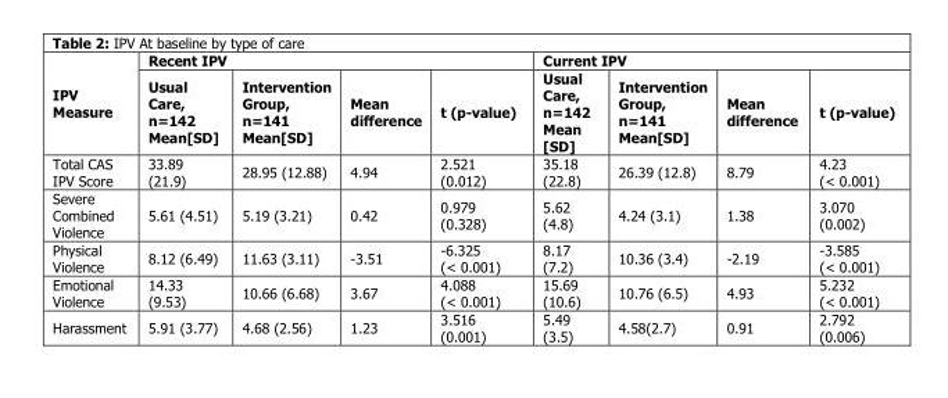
<table><thead><tr><td rowspan="2">IPV Measure</td><td colspan="4">Recent IPV</td><td colspan="4">Current IPV</td></tr><tr><td>Usual Care, n=142 Mean[SD]</td><td>Intervention Group, n=141 Mean[SD]</td><td>Mean difference</td><td>t (p-value)</td><td>Usual Care, n=142 Mean [SD]</td><td>Intervention Group, n=141 Mean[SD]</td><td>Mean difference</td><td>t (p-value)</td></tr></thead><tbody><tr><td>Total CAS IPV Score</td><td>33.89 (21.9)</td><td>28.95 (12.88)</td><td>4.94</td><td>2.521 (0.012)</td><td>35.18 (22.8)</td><td>26.39 (12.8)</td><td>8.79</td><td>4.23 (&lt; 0.001)</td></tr><tr><td>Severe Combined Violence</td><td>5.61 (4.51)</td><td>5.19 (3.21)</td><td>0.42</td><td>0.979 (0.328)</td><td>5.62 (4.8)</td><td>4.24 (3.1)</td><td>1.38</td><td>3.070 (0.002)</td></tr><tr><td>Physical Violence</td><td>8.12 (6.49)</td><td>11.63 (3.11)</td><td>-3.51</td><td>-6.325 (&lt; 0.001)</td><td>8.17 (7.2)</td><td>10.36 (3.4)</td><td>-2.19</td><td>-3.585 (&lt; 0.001)</td></tr><tr><td>Emotional Violence</td><td>14.33 (9.53)</td><td>10.66 (6.68)</td><td>3.67</td><td>4.088 (&lt; 0.001)</td><td>15.69 (10.6)</td><td>10.76 (6.5)</td><td>4.93</td><td>5.232 (&lt; 0.001)</td></tr><tr><td>Harassment</td><td>5.91 (3.77)</td><td>4.68 (2.56)</td><td>1.23</td><td>3.516 (0.001)</td><td>5.49 (3.5)</td><td>4.58(2.7)</td><td>0.91</td><td>2.792 (0.006)</td></tr></tbody></table>